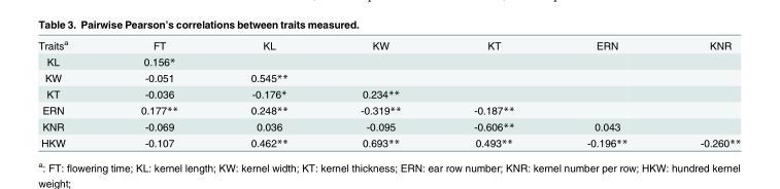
<table><tbody><tr><td>Traits<sup>a</sup></td><td>FT</td><td>KL</td><td>KW</td><td>KT</td><td>ERN</td><td>KNR</td></tr><tr><td>KL</td><td>0.156*</td><td></td><td></td><td></td><td></td><td></td></tr><tr><td>KW</td><td>-0.051</td><td>0.545**</td><td></td><td></td><td></td><td></td></tr><tr><td>KT</td><td>-0.036</td><td>-0.176*</td><td>0.234**</td><td></td><td></td><td></td></tr><tr><td>ERN</td><td>0.177**</td><td>0.248**</td><td>-0.319**</td><td>-0.187**</td><td></td><td></td></tr><tr><td>KNR</td><td>-0.069</td><td>0.036</td><td>-0.095</td><td>-0.606**</td><td>0.043</td><td></td></tr><tr><td>HKW</td><td>-0.107</td><td>0.462**</td><td>0.693**</td><td>0.493**</td><td>-0.196**</td><td>-0.260**</td></tr></tbody></table>